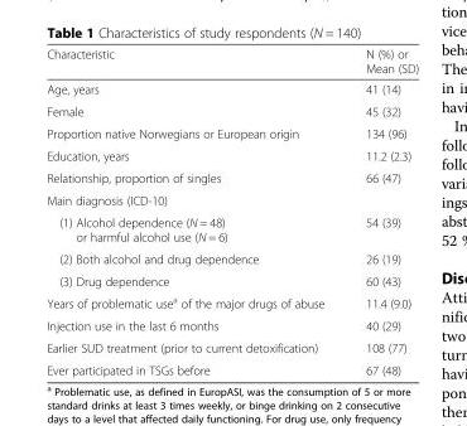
<table><thead><tr><td>Characteristic</td><td>N (%) or Mean (SD)</td></tr></thead><tbody><tr><td>Age, years</td><td>41 (14)</td></tr><tr><td>Female</td><td>45 (32)</td></tr><tr><td>Proportion native Norwegians or European origin</td><td>134 (96)</td></tr><tr><td>Education, years</td><td>11.2 (2.3)</td></tr><tr><td>Relationship, proportion of singles</td><td>66 (47)</td></tr><tr><td colspan="2">Main diagnosis (ICD-10)</td></tr><tr><td>(1) Alcohol dependence (N = 48) or harmful alcohol use (N = 6)</td><td>54 (39)</td></tr><tr><td>(2) Both alcohol and drug dependence</td><td>26 (19)</td></tr><tr><td>(3) Drug dependence</td><td>60 (43)</td></tr><tr><td>Years of problematic use<sup>a</sup> of the major drugs of abuse</td><td>11.4 (9.0)</td></tr><tr><td>Injection use in the last 6 months</td><td>40 (29)</td></tr><tr><td>Earlier SUD treatment (prior to current detoxification)</td><td>108 (77)</td></tr><tr><td>Ever participated in TSGs before</td><td>67 (48)</td></tr></tbody></table>